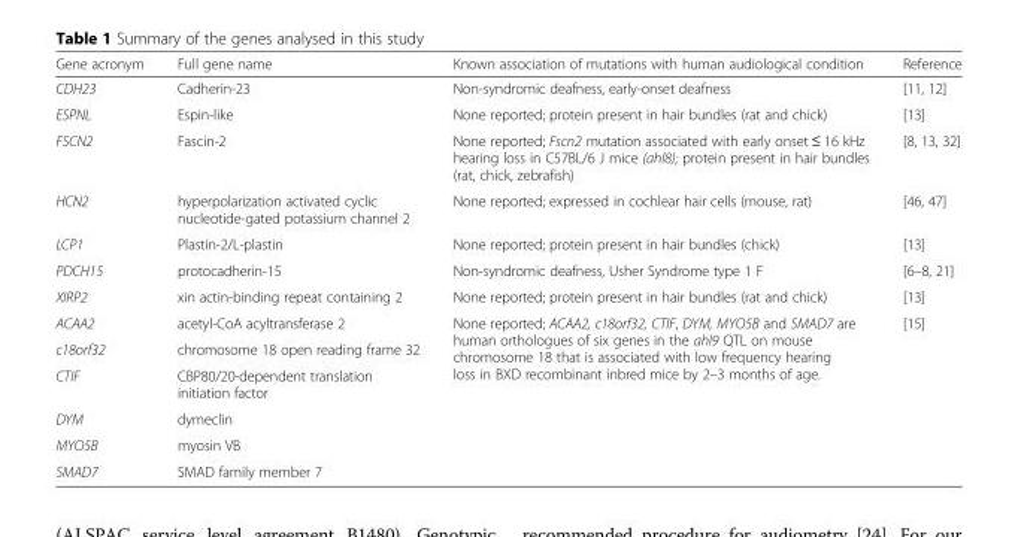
<table><thead><tr><td>Gene acronym</td><td>Full gene name</td><td>Known association of mutations with human audiological condition</td><td>Reference</td></tr></thead><tbody><tr><td>CDH23</td><td>Cadherin-23</td><td>Non-syndromic deafness, early-onset deafness</td><td>[11, 12]</td></tr><tr><td>ESPNL</td><td>Espin-like</td><td>None reported; protein present in hair bundles (rat and chick)</td><td>[13]</td></tr><tr><td>FSCN2</td><td>Fascin-2</td><td>None reported; Fscn2 mutation associated with early onset ≤ 16 kHz hearing loss in C57BL/6 J mice (ahl8); protein present in hair bundles (rat, chick, zebrafish)</td><td>[8, 13, 32]</td></tr><tr><td>HCN2</td><td>hyperpolarization activated cyclic nucleotide-gated potassium channel 2</td><td>None reported; expressed in cochlear hair cells (mouse, rat)</td><td>[46, 47]</td></tr><tr><td>LCP1</td><td>Plastin-2/L-plastin</td><td>None reported; protein present in hair bundles (chick)</td><td>[13]</td></tr><tr><td>PDCH15</td><td>protocadherin-15</td><td>Non-syndromic deafness, Usher Syndrome type 1 F</td><td>[6–8, 21]</td></tr><tr><td>XIRP2</td><td>xin actin-binding repeat containing 2</td><td>None reported; protein present in hair bundles (rat and chick)</td><td>[13]</td></tr><tr><td>ACAA2</td><td>acetyl-CoA acyltransferase 2</td><td rowspan="6">None reported; ACAA2, c18orf32, CTIF, DYM, MYO5B and SMAD7 are human orthologues of six genes in the ahl9 QTL on mouse chromosome 18 that is associated with low frequency hearing loss in BXD recombinant inbred mice by 2–3 months of age.</td><td rowspan="6">[15]</td></tr><tr><td>c18orf32</td><td>chromosome 18 open reading frame 32</td></tr><tr><td>CTIF</td><td>CBP80/20-dependent translation initiation factor</td></tr><tr><td>DYM</td><td>dymeclin</td></tr><tr><td>MYO5B</td><td>myosin VB</td></tr><tr><td>SMAD7</td><td>SMAD family member 7</td></tr></tbody></table>